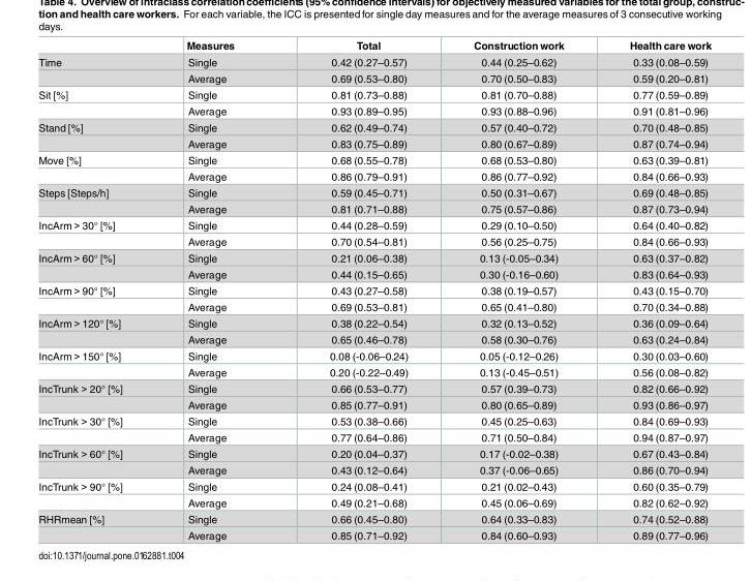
<table><thead><tr><td></td><td>Measures</td><td>Total</td><td>Construction work</td><td>Health care work</td></tr></thead><tbody><tr><td rowspan="2">Time</td><td>Single</td><td>0.42 (0.27–0.57)</td><td>0.44 (0.25–0.62)</td><td>0.33 (0.08–0.59)</td></tr><tr><td>Average</td><td>0.69 (0.53–0.80)</td><td>0.70 (0.50–0.83)</td><td>0.59 (0.20–0.81)</td></tr><tr><td rowspan="2">Sit [%]</td><td>Single</td><td>0.81 (0.73–0.88)</td><td>0.81 (0.70–0.88)</td><td>0.77 (0.59–0.89)</td></tr><tr><td>Average</td><td>0.93 (0.89–0.95)</td><td>0.93 (0.88–0.96)</td><td>0.91 (0.81–0.96)</td></tr><tr><td rowspan="2">Stand [%]</td><td>Single</td><td>0.62 (0.49–0.74)</td><td>0.57 (0.40–0.72)</td><td>0.70 (0.48–0.85)</td></tr><tr><td>Average</td><td>0.83 (0.75–0.89)</td><td>0.80 (0.67–0.89)</td><td>0.87 (0.74–0.94)</td></tr><tr><td rowspan="2">Move [%]</td><td>Single</td><td>0.68 (0.55–0.78)</td><td>0.68 (0.53–0.80)</td><td>0.63 (0.39–0.81)</td></tr><tr><td>Average</td><td>0.86 (0.79–0.91)</td><td>0.86 (0.77–0.92)</td><td>0.84 (0.66–0.93)</td></tr><tr><td rowspan="2">Steps [Steps/h]</td><td>Single</td><td>0.59 (0.45–0.71)</td><td>0.50 (0.31–0.67)</td><td>0.69 (0.48–0.85)</td></tr><tr><td>Average</td><td>0.81 (0.71–0.88)</td><td>0.75 (0.57–0.86)</td><td>0.87 (0.73–0.94)</td></tr><tr><td rowspan="2">IncArm &gt; 30° [%]</td><td>Single</td><td>0.44 (0.28–0.59)</td><td>0.29 (0.10–0.50)</td><td>0.64 (0.40–0.82)</td></tr><tr><td>Average</td><td>0.70 (0.54–0.81)</td><td>0.56 (0.25–0.75)</td><td>0.84 (0.66–0.93)</td></tr><tr><td rowspan="2">IncArm &gt; 60° [%]</td><td>Single</td><td>0.21 (0.06–0.38)</td><td>0.13 (-0.05–0.34)</td><td>0.63 (0.37–0.82)</td></tr><tr><td>Average</td><td>0.44 (0.15–0.65)</td><td>0.30 (-0.16–0.60)</td><td>0.83 (0.64–0.93)</td></tr><tr><td rowspan="2">IncArm &gt; 90° [%]</td><td>Single</td><td>0.43 (0.27–0.58)</td><td>0.38 (0.19–0.57)</td><td>0.43 (0.15–0.70)</td></tr><tr><td>Average</td><td>0.69 (0.53–0.81)</td><td>0.65 (0.41–0.80)</td><td>0.70 (0.34–0.88)</td></tr><tr><td rowspan="2">IncArm &gt; 120° [%]</td><td>Single</td><td>0.38 (0.22–0.54)</td><td>0.32 (0.13–0.52)</td><td>0.36 (0.09–0.64)</td></tr><tr><td>Average</td><td>0.65 (0.46–0.78)</td><td>0.58 (0.30–0.76)</td><td>0.63 (0.24–0.84)</td></tr><tr><td rowspan="2">IncArm &gt; 150° [%]</td><td>Single</td><td>0.08 (-0.06–0.24)</td><td>0.05 (-0.12–0.26)</td><td>0.30 (0.03–0.60)</td></tr><tr><td>Average</td><td>0.20 (-0.22–0.49)</td><td>0.13 (-0.45–0.51)</td><td>0.56 (0.08–0.82)</td></tr><tr><td rowspan="2">IncTrunk &gt; 20° [%]</td><td>Single</td><td>0.66 (0.53–0.77)</td><td>0.57 (0.39–0.73)</td><td>0.82 (0.66–0.92)</td></tr><tr><td>Average</td><td>0.85 (0.77–0.91)</td><td>0.80 (0.65–0.89)</td><td>0.93 (0.86–0.97)</td></tr><tr><td rowspan="2">IncTrunk &gt; 30° [%]</td><td>Single</td><td>0.53 (0.38–0.66)</td><td>0.45 (0.25–0.63)</td><td>0.84 (0.69–0.93)</td></tr><tr><td>Average</td><td>0.77 (0.64–0.86)</td><td>0.71 (0.50–0.84)</td><td>0.94 (0.87–0.97)</td></tr><tr><td rowspan="2">IncTrunk &gt; 60° [%]</td><td>Single</td><td>0.20 (0.04–0.37)</td><td>0.17 (-0.02–0.38)</td><td>0.67 (0.43–0.84)</td></tr><tr><td>Average</td><td>0.43 (0.12–0.64)</td><td>0.37 (-0.06–0.65)</td><td>0.86 (0.70–0.94)</td></tr><tr><td rowspan="2">IncTrunk &gt; 90° [%]</td><td>Single</td><td>0.24 (0.08–0.41)</td><td>0.21 (0.02–0.43)</td><td>0.60 (0.35–0.79)</td></tr><tr><td>Average</td><td>0.49 (0.21–0.68)</td><td>0.45 (0.06–0.69)</td><td>0.82 (0.62–0.92)</td></tr><tr><td rowspan="2">RHRmean [%]</td><td>Single</td><td>0.66 (0.45–0.80)</td><td>0.64 (0.33–0.83)</td><td>0.74 (0.52–0.88)</td></tr><tr><td>Average</td><td>0.85 (0.71–0.92)</td><td>0.84 (0.60–0.93)</td><td>0.89 (0.77–0.96)</td></tr></tbody></table>